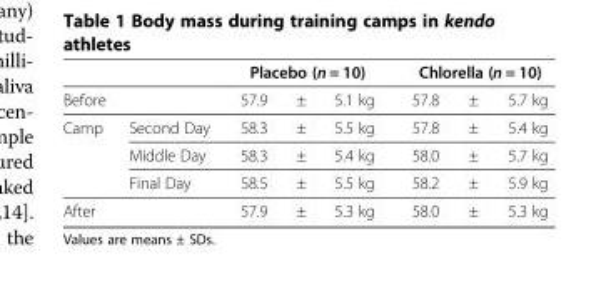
<table><thead><tr><td></td><td></td><td colspan="3">Placebo (n = 10)</td><td colspan="3">Chlorella (n = 10)</td></tr><tr><td colspan="2">Before</td><td>57.9</td><td>±</td><td>5.1 kg</td><td>57.8</td><td>±</td><td>5.7 kg</td></tr></thead><tbody><tr><td rowspan="3">Camp</td><td>Second Day</td><td>58.3</td><td>±</td><td>5.5 kg</td><td>57.8</td><td>±</td><td>5.4 kg</td></tr><tr><td>Middle Day</td><td>58.3</td><td>±</td><td>5.4 kg</td><td>58.0</td><td>±</td><td>5.7 kg</td></tr><tr><td>Final Day</td><td>58.5</td><td>±</td><td>5.5 kg</td><td>58.2</td><td>±</td><td>5.9 kg</td></tr><tr><td colspan="2">After</td><td>57.9</td><td>±</td><td>5.3 kg</td><td>58.0</td><td>±</td><td>5.3 kg</td></tr></tbody></table>